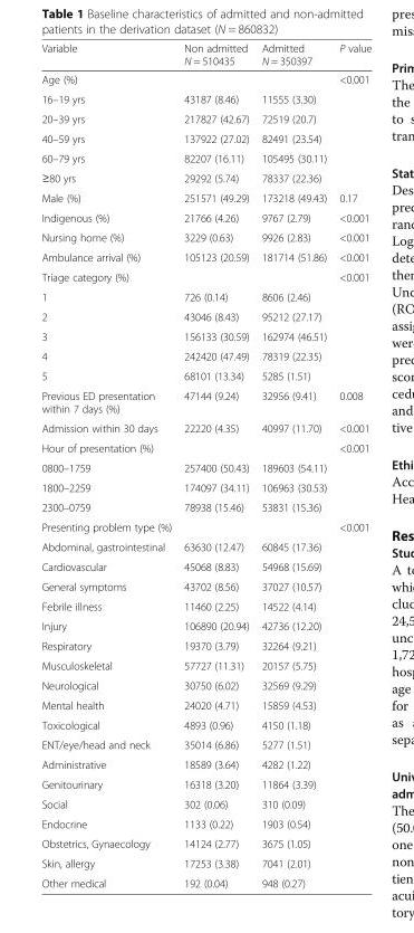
<table><thead><tr><td>Variable</td><td>Non admitted N = 510435</td><td>Admitted N = 350397</td><td>P value</td></tr></thead><tbody><tr><td>Age (%)</td><td></td><td></td><td>&lt;0.001</td></tr><tr><td>16–19 yrs</td><td>43187 (8.46)</td><td>11555 (3.30)</td><td></td></tr><tr><td>20–39 yrs</td><td>217827 (42.67)</td><td>72519 (20.7)</td><td></td></tr><tr><td>40–59 yrs</td><td>137922 (27.02)</td><td>82491 (23.54)</td><td></td></tr><tr><td>60–79 yrs</td><td>82207 (16.11)</td><td>105495 (30.11)</td><td></td></tr><tr><td>≥80 yrs</td><td>29292 (5.74)</td><td>78337 (22.36)</td><td></td></tr><tr><td>Male (%)</td><td>251571 (49.29)</td><td>173218 (49.43)</td><td>0.17</td></tr><tr><td>Indigenous (%)</td><td>21766 (4.26)</td><td>9767 (2.79)</td><td>&lt;0.001</td></tr><tr><td>Nursing home (%)</td><td>3229 (0.63)</td><td>9926 (2.83)</td><td>&lt;0.001</td></tr><tr><td>Ambulance arrival (%)</td><td>105123 (20.59)</td><td>181714 (51.86)</td><td>&lt;0.001</td></tr><tr><td>Triage category (%)</td><td></td><td></td><td>&lt;0.001</td></tr><tr><td>1</td><td>726 (0.14)</td><td>8606 (2.46)</td><td></td></tr><tr><td>2</td><td>43046 (8.43)</td><td>95212 (27.17)</td><td></td></tr><tr><td>3</td><td>156133 (30.59)</td><td>162974 (46.51)</td><td></td></tr><tr><td>4</td><td>242420 (47.49)</td><td>78319 (22.35)</td><td></td></tr><tr><td>5</td><td>68101 (13.34)</td><td>5285 (1.51)</td><td></td></tr><tr><td>Previous ED presentation within 7 days (%)</td><td>47144 (9.24)</td><td>32956 (9.41)</td><td>0.008</td></tr><tr><td>Admission within 30 days</td><td>22220 (4.35)</td><td>40997 (11.70)</td><td>&lt;0.001</td></tr><tr><td>Hour of presentation (%)</td><td></td><td></td><td>&lt;0.001</td></tr><tr><td>0800–1759</td><td>257400 (50.43)</td><td>189603 (54.11)</td><td></td></tr><tr><td>1800–2259</td><td>174097 (34.11)</td><td>106963 (30.53)</td><td></td></tr><tr><td>2300–0759</td><td>78938 (15.46)</td><td>53831 (15.36)</td><td></td></tr><tr><td>Presenting problem type (%)</td><td></td><td></td><td>&lt;0.001</td></tr><tr><td>Abdominal, gastrointestinal</td><td>63630 (12.47)</td><td>60845 (17.36)</td><td></td></tr><tr><td>Cardiovascular</td><td>45068 (8.83)</td><td>54968 (15.69)</td><td></td></tr><tr><td>General symptoms</td><td>43702 (8.56)</td><td>37027 (10.57)</td><td></td></tr><tr><td>Febrile illness</td><td>11460 (2.25)</td><td>14522 (4.14)</td><td></td></tr><tr><td>Injury</td><td>106890 (20.94)</td><td>42736 (12.20)</td><td></td></tr><tr><td>Respiratory</td><td>19370 (3.79)</td><td>32264 (9.21)</td><td></td></tr><tr><td>Musculoskeletal</td><td>57727 (11.31)</td><td>20157 (5.75)</td><td></td></tr><tr><td>Neurological</td><td>30750 (6.02)</td><td>32569 (9.29)</td><td></td></tr><tr><td>Mental health</td><td>24020 (4.71)</td><td>15859 (4.53)</td><td></td></tr><tr><td>Toxicological</td><td>4893 (0.96)</td><td>4150 (1.18)</td><td></td></tr><tr><td>ENT/eye/head and neck</td><td>35014 (6.86)</td><td>5277 (1.51)</td><td></td></tr><tr><td>Administrative</td><td>18589 (3.64)</td><td>4282 (1.22)</td><td></td></tr><tr><td>Genitourinary</td><td>16318 (3.20)</td><td>11864 (3.39)</td><td></td></tr><tr><td>Social</td><td>302 (0.06)</td><td>310 (0.09)</td><td></td></tr><tr><td>Endocrine</td><td>1133 (0.22)</td><td>1903 (0.54)</td><td></td></tr><tr><td>Obstetrics, Gynaecology</td><td>14124 (2.77)</td><td>3675 (1.05)</td><td></td></tr><tr><td>Skin, allergy</td><td>17253 (3.38)</td><td>7041 (2.01)</td><td></td></tr><tr><td>Other medical</td><td>192 (0.04)</td><td>948 (0.27)</td><td></td></tr></tbody></table>